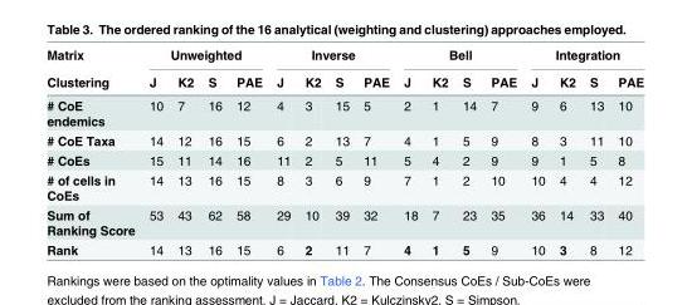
<table><thead><tr><td rowspan="2">Matrix Clustering</td><td colspan="4">Unweighted</td><td colspan="4">Inverse</td><td colspan="4">Bell</td><td colspan="4">Integration</td></tr><tr><td>J</td><td>K2</td><td>S</td><td>PAE</td><td>J</td><td>K2</td><td>S</td><td>PAE</td><td>J</td><td>K2</td><td>S</td><td>PAE</td><td>J</td><td>K2</td><td>S</td><td>PAE</td></tr></thead><tbody><tr><td># CoE endemics</td><td>10</td><td>7</td><td>16</td><td>12</td><td>4</td><td>3</td><td>15</td><td>5</td><td>2</td><td>1</td><td>14</td><td>7</td><td>9</td><td>6</td><td>13</td><td>10</td></tr><tr><td># CoE Taxa</td><td>14</td><td>12</td><td>16</td><td>15</td><td>6</td><td>2</td><td>13</td><td>7</td><td>4</td><td>1</td><td>5</td><td>9</td><td>8</td><td>3</td><td>11</td><td>10</td></tr><tr><td># CoEs</td><td>15</td><td>11</td><td>14</td><td>16</td><td>11</td><td>2</td><td>5</td><td>11</td><td>5</td><td>4</td><td>2</td><td>9</td><td>9</td><td>1</td><td>5</td><td>8</td></tr><tr><td># of cells in CoEs</td><td>14</td><td>13</td><td>16</td><td>15</td><td>8</td><td>3</td><td>6</td><td>9</td><td>7</td><td>1</td><td>2</td><td>10</td><td>10</td><td>4</td><td>4</td><td>12</td></tr><tr><td>Sum of Ranking Score</td><td>53</td><td>43</td><td>62</td><td>58</td><td>29</td><td>10</td><td>39</td><td>32</td><td>18</td><td>7</td><td>23</td><td>35</td><td>36</td><td>14</td><td>33</td><td>40</td></tr><tr><td>Rank</td><td>14</td><td>13</td><td>16</td><td>15</td><td>6</td><td>2</td><td>11</td><td>7</td><td>4</td><td>1</td><td>5</td><td>9</td><td>10</td><td>3</td><td>8</td><td>12</td></tr></tbody></table>